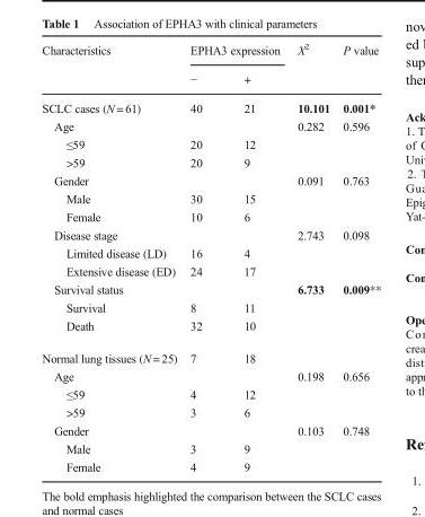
<table><thead><tr><td rowspan="2">Characteristics</td><td colspan="2">EPHA3 expression</td><td rowspan="2">X<sup>2</sup></td><td rowspan="2">P value</td></tr><tr><td>−</td><td>+</td></tr></thead><tbody><tr><td>SCLC cases (N = 61)</td><td>40</td><td>21</td><td>10.101</td><td>0.001*</td></tr><tr><td>Age</td><td></td><td></td><td>0.282</td><td>0.596</td></tr><tr><td>≤59</td><td>20</td><td>12</td><td></td><td></td></tr><tr><td>&gt;59</td><td>20</td><td>9</td><td></td><td></td></tr><tr><td>Gender</td><td></td><td></td><td>0.091</td><td>0.763</td></tr><tr><td>Male</td><td>30</td><td>15</td><td></td><td></td></tr><tr><td>Female</td><td>10</td><td>6</td><td></td><td></td></tr><tr><td>Disease stage</td><td></td><td></td><td>2.743</td><td>0.098</td></tr><tr><td>Limited disease (LD)</td><td>16</td><td>4</td><td></td><td></td></tr><tr><td>Extensive disease (ED)</td><td>24</td><td>17</td><td></td><td></td></tr><tr><td>Survival status</td><td></td><td></td><td>6.733</td><td>0.009**</td></tr><tr><td>Survival</td><td>8</td><td>11</td><td></td><td></td></tr><tr><td>Death</td><td>32</td><td>10</td><td></td><td></td></tr><tr><td>Normal lung tissues (N = 25)</td><td>7</td><td>18</td><td></td><td></td></tr><tr><td>Age</td><td></td><td></td><td>0.198</td><td>0.656</td></tr><tr><td>≤59</td><td>4</td><td>12</td><td></td><td></td></tr><tr><td>&gt;59</td><td>3</td><td>6</td><td></td><td></td></tr><tr><td>Gender</td><td></td><td></td><td>0.103</td><td>0.748</td></tr><tr><td>Male</td><td>3</td><td>9</td><td></td><td></td></tr><tr><td>Female</td><td>4</td><td>9</td><td></td><td></td></tr></tbody></table>